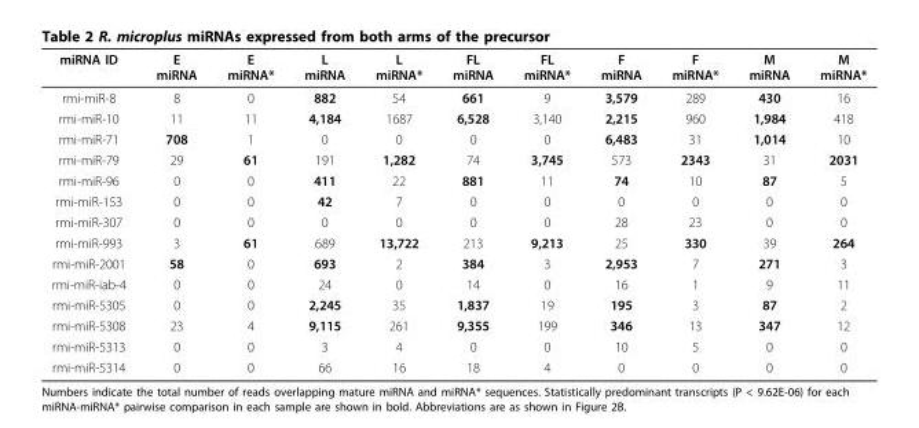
<table><thead><tr><td>miRNA ID</td><td>E miRNA</td><td>E miRNA*</td><td>L miRNA</td><td>L miRNA*</td><td>FL miRNA</td><td>FL miRNA*</td><td>F miRNA</td><td>F miRNA*</td><td>M miRNA</td><td>M miRNA*</td></tr></thead><tbody><tr><td>rmi-miR-8</td><td>8</td><td>0</td><td>882</td><td>54</td><td>661</td><td>9</td><td>3,579</td><td>289</td><td>430</td><td>16</td></tr><tr><td>rmi-miR-10</td><td>11</td><td>11</td><td>4,184</td><td>1687</td><td>6,528</td><td>3,140</td><td>2,215</td><td>960</td><td>1,984</td><td>418</td></tr><tr><td>rmi-miR-71</td><td>708</td><td>1</td><td>0</td><td>0</td><td>0</td><td>0</td><td>6,483</td><td>31</td><td>1,014</td><td>10</td></tr><tr><td>rmi-miR-79</td><td>29</td><td>61</td><td>191</td><td>1,282</td><td>74</td><td>3,745</td><td>573</td><td>2343</td><td>31</td><td>2031</td></tr><tr><td>rmi-miR-96</td><td>0</td><td>0</td><td>411</td><td>22</td><td>881</td><td>11</td><td>74</td><td>10</td><td>87</td><td>5</td></tr><tr><td>rmi-miR-153</td><td>0</td><td>0</td><td>42</td><td>7</td><td>0</td><td>0</td><td>0</td><td>0</td><td>0</td><td>0</td></tr><tr><td>rmi-miR-307</td><td>0</td><td>0</td><td>0</td><td>0</td><td>0</td><td>0</td><td>28</td><td>23</td><td>0</td><td>0</td></tr><tr><td>rmi-miR-993</td><td>3</td><td>61</td><td>689</td><td>13,722</td><td>213</td><td>9,213</td><td>25</td><td>330</td><td>39</td><td>264</td></tr><tr><td>rmi-miR-2001</td><td>58</td><td>0</td><td>693</td><td>2</td><td>384</td><td>3</td><td>2,953</td><td>7</td><td>271</td><td>3</td></tr><tr><td>rmi-miR-iab-4</td><td>0</td><td>0</td><td>24</td><td>0</td><td>14</td><td>0</td><td>16</td><td>1</td><td>9</td><td>11</td></tr><tr><td>rmi-miR-5305</td><td>0</td><td>0</td><td>2,245</td><td>35</td><td>1,837</td><td>19</td><td>195</td><td>3</td><td>87</td><td>2</td></tr><tr><td>rmi-miR-5308</td><td>23</td><td>4</td><td>9,115</td><td>261</td><td>9,355</td><td>199</td><td>346</td><td>13</td><td>347</td><td>12</td></tr><tr><td>rmi-miR-5313</td><td>0</td><td>0</td><td>3</td><td>4</td><td>0</td><td>0</td><td>10</td><td>5</td><td>0</td><td>0</td></tr><tr><td>rmi-miR-5314</td><td>0</td><td>0</td><td>66</td><td>16</td><td>18</td><td>4</td><td>0</td><td>0</td><td>0</td><td>0</td></tr></tbody></table>